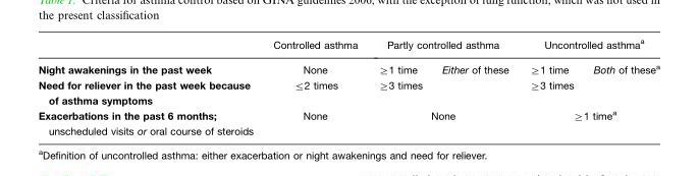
<table><thead><tr><td rowspan="2">Night awakenings in the past week</td><td rowspan="2">Controlled asthma None</td><td colspan="2">Partly controlled asthma</td><td colspan="2">Uncontrolled asthma<sup>a</sup></td></tr><tr><td>≥1 time</td><td>Either of these</td><td>≥1 time</td><td>Both of these<sup>a</sup></td></tr></thead><tbody><tr><td>Need for reliever in the past week because of asthma symptoms</td><td>≤2 times</td><td>≥3 times</td><td></td><td>≥3 times</td><td></td></tr><tr><td>Exacerbations in the past 6 months; unscheduled visits or oral course of steroids</td><td>None</td><td colspan="2">None</td><td colspan="2">≥1 time<sup>a</sup></td></tr></tbody></table>